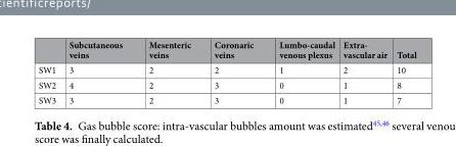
<table><thead><tr><td></td><td>Subcutaneous veins</td><td>Mesenteric veins</td><td>Coronaric veins</td><td>Lumbo-caudal venous plexus</td><td>Extra- vascular air</td><td>Total</td></tr></thead><tbody><tr><td>SW1</td><td>3</td><td>2</td><td>2</td><td>1</td><td>2</td><td>10</td></tr><tr><td>SW2</td><td>4</td><td>2</td><td>3</td><td>0</td><td>1</td><td>8</td></tr><tr><td>SW3</td><td>3</td><td>2</td><td>3</td><td>0</td><td>1</td><td>7</td></tr></tbody></table>